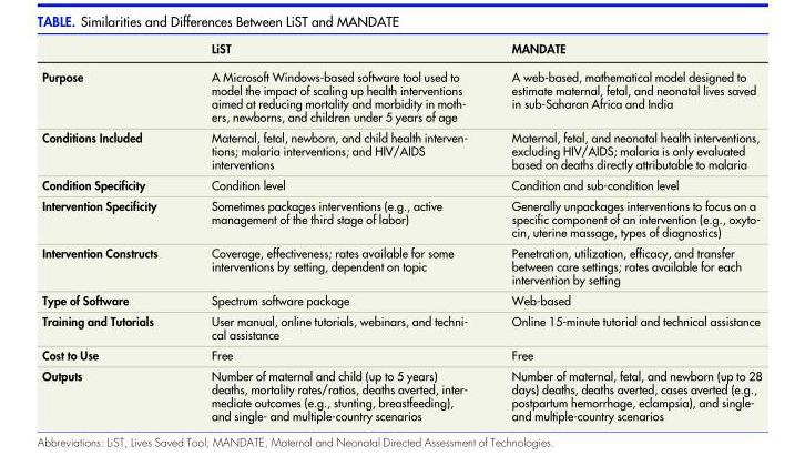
<table><thead><tr><td></td><td>LiST</td><td>MANDATE</td></tr></thead><tbody><tr><td>Purpose</td><td>A Microsoft Windows-based software tool used to model the impact of scaling up health interventions aimed at reducing mortality and morbidity in moth- ers, newborns, and children under 5 years of age</td><td>A web-based, mathematical model designed to estimate maternal, fetal, and neonatal lives saved in sub-Saharan Africa and India</td></tr><tr><td>Conditions Included</td><td>Maternal, fetal, newborn, and child health interven- tions; malaria interventions; and HIV/AIDS interventions</td><td>Maternal, fetal, and neonatal health interventions, excluding HIV/AIDS; malaria is only evaluated based on deaths directly attributable to malaria</td></tr><tr><td>Condition Specificity</td><td>Condition level</td><td>Condition and sub-condition level</td></tr><tr><td>Intervention Specificity</td><td>Sometimes packages interventions (e.g., active management of the third stage of labor)</td><td>Generally unpackages interventions to focus on a specific component of an intervention (e.g., oxyto- cin, uterine massage, types of diagnostics)</td></tr><tr><td>Intervention Constructs</td><td>Coverage, effectiveness; rates available for some interventions by setting, dependent on topic</td><td>Penetration, utilization, efficacy, and transfer between care settings; rates available for each intervention by setting</td></tr><tr><td>Type of Software</td><td>Spectrum software package</td><td>Web-based</td></tr><tr><td>Training and Tutorials</td><td>User manual, online tutorials, webinars, and techni- cal assistance</td><td>Online 15-minute tutorial and technical assistance</td></tr><tr><td>Cost to Use</td><td>Free</td><td>Free</td></tr><tr><td>Outputs</td><td>Number of maternal and child (up to 5 years) deaths, mortality rates/ratios, deaths averted, inter- mediate outcomes (e.g., stunting, breastfeeding), and single- and multiple-country scenarios</td><td>Number of maternal, fetal, and newborn (up to 28 days) deaths, deaths averted, cases averted (e.g., postpartum hemorrhage, eclampsia), and single- and multiple-country scenarios</td></tr></tbody></table>